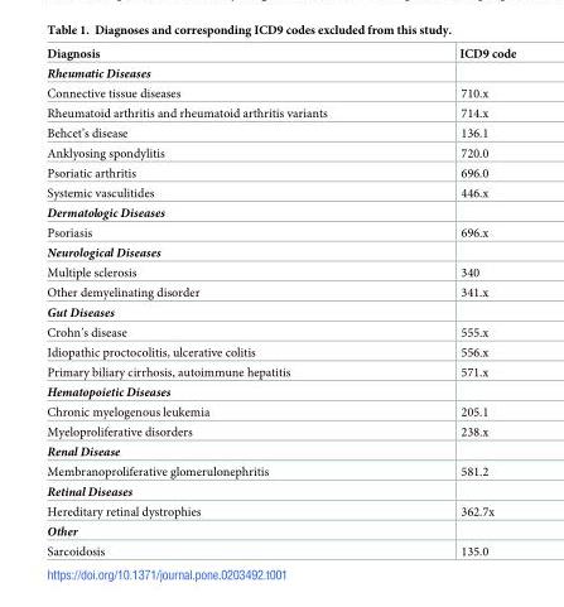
<table><thead><tr><td>Diagnosis</td><td>ICD9 code</td></tr></thead><tbody><tr><td colspan="2">Rheumatic Diseases</td></tr><tr><td>Connective tissue diseases</td><td>710.x</td></tr><tr><td>Rheumatoid arthritis and rheumatoid arthritis variants</td><td>714.x</td></tr><tr><td>Behcet’s disease</td><td>136.1</td></tr><tr><td>Anklyosing spondylitis</td><td>720.0</td></tr><tr><td>Psoriatic arthritis</td><td>696.0</td></tr><tr><td>Systemic vasculitides</td><td>446.x</td></tr><tr><td colspan="2">Dermatologic Diseases</td></tr><tr><td>Psoriasis</td><td>696.x</td></tr><tr><td colspan="2">Neurological Diseases</td></tr><tr><td>Multiple sclerosis</td><td>340</td></tr><tr><td>Other demyelinating disorder</td><td>341.x</td></tr><tr><td colspan="2">Gut Diseases</td></tr><tr><td>Crohn’s disease</td><td>555.x</td></tr><tr><td>Idiopathic proctocolitis, ulcerative colitis</td><td>556.x</td></tr><tr><td>Primary biliary cirrhosis, autoimmune hepatitis</td><td>571.x</td></tr><tr><td colspan="2">Hematopoietic Diseases</td></tr><tr><td>Chronic myelogenous leukemia</td><td>205.1</td></tr><tr><td>Myeloproliferative disorders</td><td>238.x</td></tr><tr><td colspan="2">Renal Disease</td></tr><tr><td>Membranoproliferative glomerulonephritis</td><td>581.2</td></tr><tr><td colspan="2">Retinal Diseases</td></tr><tr><td>Hereditary retinal dystrophies</td><td>362.7x</td></tr><tr><td colspan="2">Other</td></tr><tr><td>Sarcoidosis</td><td>135.0</td></tr></tbody></table>